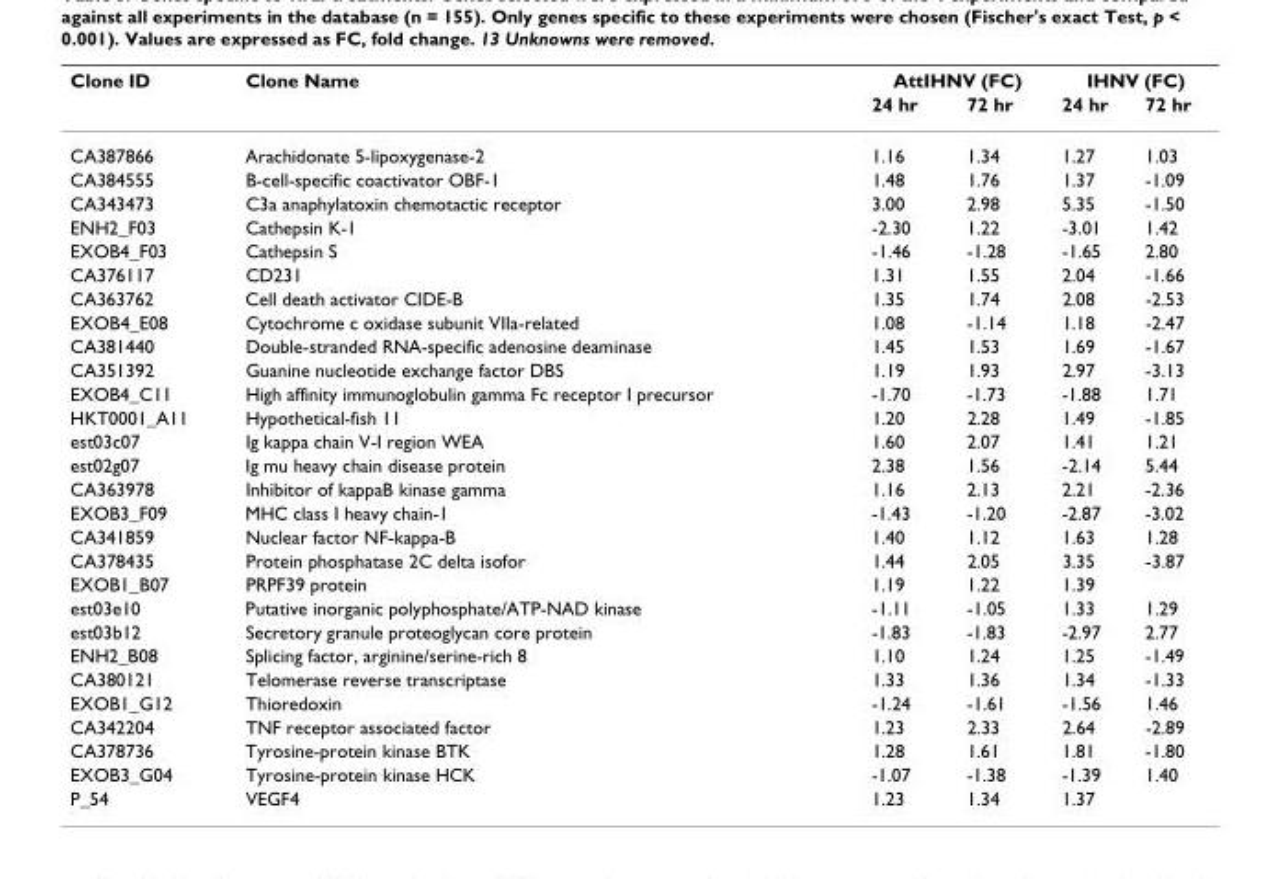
<table><thead><tr><td rowspan="2">Clone ID</td><td rowspan="2">Clone Name</td><td colspan="2">AttIHNV (FC)</td><td colspan="2">IHNV (FC)</td></tr><tr><td>24 hr</td><td>72 hr</td><td>24 hr</td><td>72 hr</td></tr></thead><tbody><tr><td>CA387866</td><td>Arachidonate 5-lipoxygenase-2</td><td>1.16</td><td>1.34</td><td>1.27</td><td>1.03</td></tr><tr><td>CA384555</td><td>B-cell-specific coactivator OBF-1</td><td>1.48</td><td>1.76</td><td>1.37</td><td>-1.09</td></tr><tr><td>CA343473</td><td>C3a anaphylatoxin chemotactic receptor</td><td>3.00</td><td>2.98</td><td>5.35</td><td>-1.50</td></tr><tr><td>ENH2_F03</td><td>Cathepsin K-1</td><td>-2.30</td><td>1.22</td><td>-3.01</td><td>1.42</td></tr><tr><td>EXOB4_F03</td><td>Cathepsin S</td><td>-1.46</td><td>-1.28</td><td>-1.65</td><td>2.80</td></tr><tr><td>CA376117</td><td>CD231</td><td>1.31</td><td>1.55</td><td>2.04</td><td>-1.66</td></tr><tr><td>CA363762</td><td>Cell death activator CIDE-B</td><td>1.35</td><td>1.74</td><td>2.08</td><td>-2.53</td></tr><tr><td>EXOB4_E08</td><td>Cytochrome c oxidase subunit VIIa-related</td><td>1.08</td><td>-1.14</td><td>1.18</td><td>-2.47</td></tr><tr><td>CA381440</td><td>Double-stranded RNA-specific adenosine deaminase</td><td>1.45</td><td>1.53</td><td>1.69</td><td>-1.67</td></tr><tr><td>CA351392</td><td>Guanine nucleotide exchange factor DBS</td><td>1.19</td><td>1.93</td><td>2.97</td><td>-3.13</td></tr><tr><td>EXOB4_C11</td><td>High affinity immunoglobulin gamma Fc receptor I precursor</td><td>-1.70</td><td>-1.73</td><td>-1.88</td><td>1.71</td></tr><tr><td>HKT0001_A11</td><td>Hypothetical-fish 11</td><td>1.20</td><td>2.28</td><td>1.49</td><td>-1.85</td></tr><tr><td>est03c07</td><td>Ig kappa chain V-I region WEA</td><td>1.60</td><td>2.07</td><td>1.41</td><td>1.21</td></tr><tr><td>est02g07</td><td>Ig mu heavy chain disease protein</td><td>2.38</td><td>1.56</td><td>-2.14</td><td>5.44</td></tr><tr><td>CA363978</td><td>Inhibitor of kappaB kinase gamma</td><td>1.16</td><td>2.13</td><td>2.21</td><td>-2.36</td></tr><tr><td>EXOB3_F09</td><td>MHC class I heavy chain-1</td><td>-1.43</td><td>-1.20</td><td>-2.87</td><td>-3.02</td></tr><tr><td>CA341859</td><td>Nuclear factor NF-kappa-B</td><td>1.40</td><td>1.12</td><td>1.63</td><td>1.28</td></tr><tr><td>CA378435</td><td>Protein phosphatase 2C delta isofor</td><td>1.44</td><td>2.05</td><td>3.35</td><td>-3.87</td></tr><tr><td>EXOB1_B07</td><td>PRPF39 protein</td><td>1.19</td><td>1.22</td><td>1.39</td><td></td></tr><tr><td>est03e10</td><td>Putative inorganic polyphosphate/ATP-NAD kinase</td><td>-1.11</td><td>-1.05</td><td>1.33</td><td>1.29</td></tr><tr><td>est03b12</td><td>Secretory granule proteoglycan core protein</td><td>-1.83</td><td>-1.83</td><td>-2.97</td><td>2.77</td></tr><tr><td>ENH2_B08</td><td>Splicing factor, arginine/serine-rich 8</td><td>1.10</td><td>1.24</td><td>1.25</td><td>-1.49</td></tr><tr><td>CA380121</td><td>Telomerase reverse transcriptase</td><td>1.33</td><td>1.36</td><td>1.34</td><td>-1.33</td></tr><tr><td>EXOB1_G12</td><td>Thioredoxin</td><td>-1.24</td><td>-1.61</td><td>-1.56</td><td>1.46</td></tr><tr><td>CA342204</td><td>TNF receptor associated factor</td><td>1.23</td><td>2.33</td><td>2.64</td><td>-2.89</td></tr><tr><td>CA378736</td><td>Tyrosine-protein kinase BTK</td><td>1.28</td><td>1.61</td><td>1.81</td><td>-1.80</td></tr><tr><td>EXOB3_G04</td><td>Tyrosine-protein kinase HCK</td><td>-1.07</td><td>-1.38</td><td>-1.39</td><td>1.40</td></tr><tr><td>P_54</td><td>VEGF4</td><td>1.23</td><td>1.34</td><td>1.37</td><td></td></tr></tbody></table>